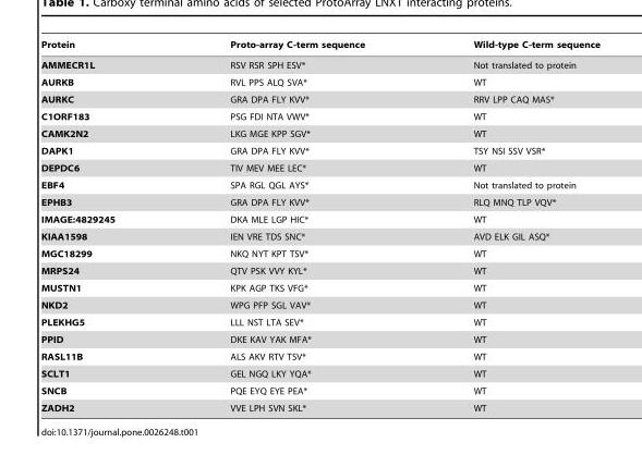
<table><thead><tr><td>Protein</td><td>Proto-array C-term sequence</td><td>Wild-type C-term sequence</td></tr></thead><tbody><tr><td>AMMECR1L</td><td>RSV RSR SPH ESV*</td><td>Not translated to protein</td></tr><tr><td>AURKB</td><td>RVL PPS ALQ SVA*</td><td>WT</td></tr><tr><td>AURKC</td><td>GRA DPA FLY KVV*</td><td>RRV LPP CAQ MAS*</td></tr><tr><td>C1ORF183</td><td>PSG FDI NTA VWV*</td><td>WT</td></tr><tr><td>CAMK2N2</td><td>LKG MGE KPP SGV*</td><td>WT</td></tr><tr><td>DAPK1</td><td>GRA DPA FLY KVV*</td><td>TSY NSI SSV VSR*</td></tr><tr><td>DEPDC6</td><td>TIV MEV MEE LEC*</td><td>WT</td></tr><tr><td>EBF4</td><td>SPA RGL QGL AYS*</td><td>Not translated to protein</td></tr><tr><td>EPHB3</td><td>GRA DPA FLY KVV*</td><td>RLQ MNQ TLP VQV*</td></tr><tr><td>IMAGE:4829245</td><td>DKA MLE LGP HIC*</td><td>WT</td></tr><tr><td>KIAA1598</td><td>IEN VRE TDS SNC*</td><td>AVD ELK GIL ASQ*</td></tr><tr><td>MGC18299</td><td>NKQ NYT KPT TSV*</td><td>WT</td></tr><tr><td>MRPS24</td><td>QTV PSK VVY KYL*</td><td>WT</td></tr><tr><td>MUSTN1</td><td>KPK AGP TKS VFG*</td><td>WT</td></tr><tr><td>NKD2</td><td>WPG PFP SGL VAV*</td><td>WT</td></tr><tr><td>PLEKHG5</td><td>LLL NST LTA SEV*</td><td>WT</td></tr><tr><td>PPID</td><td>DKE KAV YAK MFA*</td><td>WT</td></tr><tr><td>RASL11B</td><td>ALS AKV RTV TSV*</td><td>WT</td></tr><tr><td>SCLT1</td><td>GEL NGQ LKY YQA*</td><td>WT</td></tr><tr><td>SNCB</td><td>PQE EYQ EYE PEA*</td><td>WT</td></tr><tr><td>ZADH2</td><td>VVE LPH SVN SKL*</td><td>WT</td></tr></tbody></table>